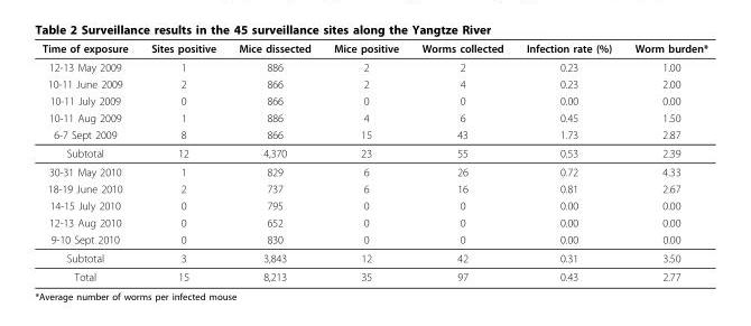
<table><thead><tr><td>Time of exposure</td><td>Sites positive</td><td>Mice dissected</td><td>Mice positive</td><td>Worms collected</td><td>Infection rate (%)</td><td>Worm burden*</td></tr></thead><tbody><tr><td>12-13 May 2009</td><td>1</td><td>886</td><td>2</td><td>2</td><td>0.23</td><td>1.00</td></tr><tr><td>10-11 June 2009</td><td>2</td><td>866</td><td>2</td><td>4</td><td>0.23</td><td>2.00</td></tr><tr><td>10-11 July 2009</td><td>0</td><td>866</td><td>0</td><td>0</td><td>0.00</td><td>0.00</td></tr><tr><td>10-11 Aug 2009</td><td>1</td><td>886</td><td>4</td><td>6</td><td>0.45</td><td>1.50</td></tr><tr><td>6-7 Sept 2009</td><td>8</td><td>866</td><td>15</td><td>43</td><td>1.73</td><td>2.87</td></tr><tr><td>Subtotal</td><td>12</td><td>4,370</td><td>23</td><td>55</td><td>0.53</td><td>2.39</td></tr><tr><td>30-31 May 2010</td><td>1</td><td>829</td><td>6</td><td>26</td><td>0.72</td><td>4.33</td></tr><tr><td>18-19 June 2010</td><td>2</td><td>737</td><td>6</td><td>16</td><td>0.81</td><td>2.67</td></tr><tr><td>14-15 July 2010</td><td>0</td><td>795</td><td>0</td><td>0</td><td>0.00</td><td>0.00</td></tr><tr><td>12-13 Aug 2010</td><td>0</td><td>652</td><td>0</td><td>0</td><td>0.00</td><td>0.00</td></tr><tr><td>9-10 Sept 2010</td><td>0</td><td>830</td><td>0</td><td>0</td><td>0.00</td><td>0.00</td></tr><tr><td>Subtotal</td><td>3</td><td>3,843</td><td>12</td><td>42</td><td>0.31</td><td>3.50</td></tr><tr><td>Total</td><td>15</td><td>8,213</td><td>35</td><td>97</td><td>0.43</td><td>2.77</td></tr></tbody></table>